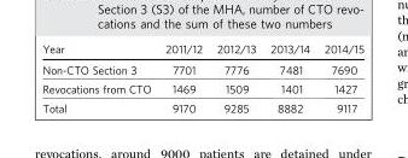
<table><thead><tr><td>Year</td><td>2011/12</td><td>2012/13</td><td>2013/14</td><td>2014/15</td></tr></thead><tbody><tr><td>Non-CTO Section 3</td><td>7701</td><td>7776</td><td>7481</td><td>7690</td></tr><tr><td>Revocations from CTO</td><td>1469</td><td>1509</td><td>1401</td><td>1427</td></tr><tr><td>Total</td><td>9170</td><td>9285</td><td>8882</td><td>9117</td></tr></tbody></table>